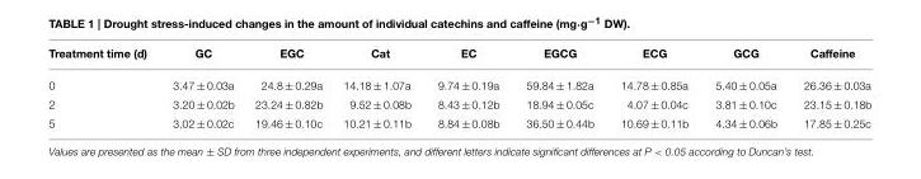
<table><thead><tr><td>Treatment time (d)</td><td>GC</td><td>EGC</td><td>Cat</td><td>EC</td><td>EGCG</td><td>ECG</td><td>GCG</td><td>Caffeine</td></tr></thead><tbody><tr><td>0</td><td>3.47 ± 0.03a</td><td>24.8 ± 0.29a</td><td>14.18 ± 1.07a</td><td>9.74 ± 0.19a</td><td>59.84 ± 1.82a</td><td>14.78 ± 0.85a</td><td>5.40 ± 0.05a</td><td>26.36 ± 0.03a</td></tr><tr><td>2</td><td>3.20 ± 0.02b</td><td>23.24 ± 0.82b</td><td>9.52 ± 0.08b</td><td>8.43 ± 0.12b</td><td>18.94 ± 0.05c</td><td>4.07 ± 0.04c</td><td>3.81 ± 0.10c</td><td>23.15 ± 0.18b</td></tr><tr><td>5</td><td>3.02 ± 0.02c</td><td>19.46 ± 0.10c</td><td>10.21 ± 0.11b</td><td>8.84 ± 0.08b</td><td>36.50 ± 0.44b</td><td>10.69 ± 0.11b</td><td>4.34 ± 0.06b</td><td>17.85 ± 0.25c</td></tr></tbody></table>